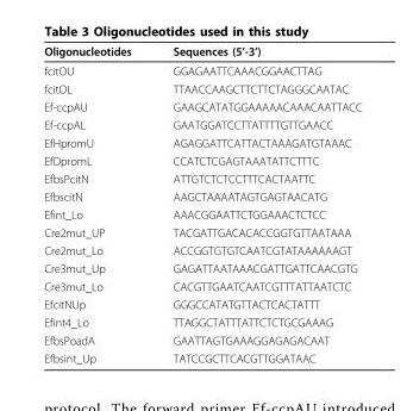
<table><thead><tr><td>Oligonucleotides</td><td>Sequences (5’-3’)</td></tr></thead><tbody><tr><td>fcitOU</td><td>GGAGAATTCAAACGGAACTTAG</td></tr><tr><td>fcitOL</td><td>TTAACCAAGCTTCTTCTAGGGCAATAC</td></tr><tr><td>Ef-ccpAU</td><td>GAAGCATATGGAAAAACAAACAATTACC</td></tr><tr><td>Ef-ccpAL</td><td>GAATGGATCCTTATTTTGTTGAACC</td></tr><tr><td>EfHpromU</td><td>AGAGGATTCATTACTAAAGATGTAAAC</td></tr><tr><td>EfDpromL</td><td>CCATCTCGAGTAAATATTCTTTC</td></tr><tr><td>EfbsPcitN</td><td>ATTGTCTCTCCTTTCACTAATTC</td></tr><tr><td>EfbscitN</td><td>AAGCTAAAATAGTGAGTAACATG</td></tr><tr><td>Efint_Lo</td><td>AAACGGAATTCTGGAAACTCTCC</td></tr><tr><td>Cre2mut_UP</td><td>TACGATTGACACACCGGTGTTAATAAA</td></tr><tr><td>Cre2mut_Lo</td><td>ACCGGTGTGTCAATCGTATAAAAAAGT</td></tr><tr><td>Cre3mut_Up</td><td>GAGATTAATAAACGATTGATTCAACGTG</td></tr><tr><td>Cre3mut_Lo</td><td>CACGTTGAATCAATCGTTTATTAATCTC</td></tr><tr><td>EfcitNUp</td><td>GGGCCATATGTTACTCACTATTT</td></tr><tr><td>Efint4_Lo</td><td>TTAGGCTATTTATTCTCTGCGAAAG</td></tr><tr><td>EfbsPoadA</td><td>GAATTAGTGAAAGGAGAGACAAT</td></tr><tr><td>Efbsint_Up</td><td>TATCCGCTTCACGTTGGATAAC</td></tr></tbody></table>